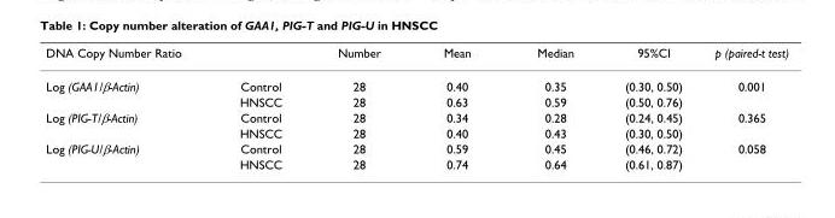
<table><thead><tr><td>DNA Copy Number Ratio</td><td></td><td>Number</td><td>Mean</td><td>Median</td><td>95%CI</td><td>p (paired-t test)</td></tr></thead><tbody><tr><td rowspan="2">Log (GAA1/β-Actin)</td><td>Control</td><td>28</td><td>0.40</td><td>0.35</td><td>(0.30, 0.50)</td><td>0.001</td></tr><tr><td>HNSCC</td><td>28</td><td>0.63</td><td>0.59</td><td>(0.50, 0.76)</td><td></td></tr><tr><td rowspan="2">Log (PIG-T/β-Actin)</td><td>Control</td><td>28</td><td>0.34</td><td>0.28</td><td>(0.24, 0.45)</td><td>0.365</td></tr><tr><td>HNSCC</td><td>28</td><td>0.40</td><td>0.43</td><td>(0.30, 0.50)</td><td></td></tr><tr><td rowspan="2">Log (PIG-U/β-Actin)</td><td>Control</td><td>28</td><td>0.59</td><td>0.45</td><td>(0.46, 0.72)</td><td>0.058</td></tr><tr><td>HNSCC</td><td>28</td><td>0.74</td><td>0.64</td><td>(0.61, 0.87)</td><td></td></tr></tbody></table>